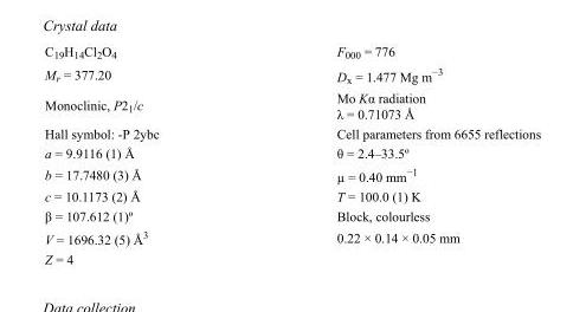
<table><tbody><tr><td>C<sub>19</sub>H<sub>14</sub>Cl<sub>2</sub>O<sub>4</sub></td><td>F000 = 776</td></tr><tr><td>M<sub>r</sub> = 377.20</td><td>D<sub>x</sub> = 1.477 Mg m<sup>−3</sup></td></tr><tr><td>Monoclinic, P2<sub>1</sub>/c</td><td>Mo Kα radiation λ = 0.71073 Å</td></tr><tr><td>Hall symbol: -P 2ybc</td><td>Cell parameters from 6655 reflections</td></tr><tr><td>a = 9.9116 (1) Å</td><td>θ = 2.4–33.5º</td></tr><tr><td>b = 17.7480 (3) Å</td><td>µ = 0.40 mm<sup>−1</sup></td></tr><tr><td>c = 10.1173 (2) Å</td><td>T = 100.0 (1) K</td></tr><tr><td>β = 107.612 (1)º</td><td>Block, colourless</td></tr><tr><td>V = 1696.32 (5) Å<sup>3</sup></td><td>0.22 × 0.14 × 0.05 mm</td></tr><tr><td>Z = 4</td><td></td></tr></tbody></table>